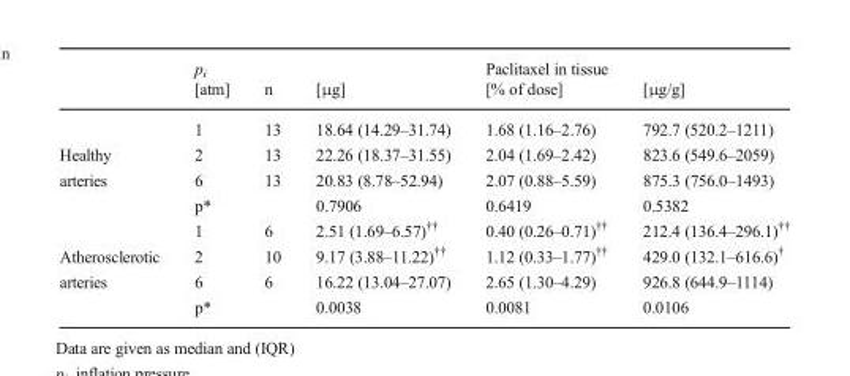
<table><thead><tr><td rowspan="2"></td><td rowspan="2">p<sub>i</sub> [atm]</td><td rowspan="2">n</td><td rowspan="2">[μg]</td><td rowspan="2">Paclitaxel in tissue [% of dose]</td><td rowspan="2">[μg/g]</td></tr><tr></tr></thead><tbody><tr><td></td><td>1</td><td>13</td><td>18.64 (14.29–31.74)</td><td>1.68 (1.16–2.76)</td><td>792.7 (520.2–1211)</td></tr><tr><td>Healthy</td><td>2</td><td>13</td><td>22.26 (18.37–31.55)</td><td>2.04 (1.69–2.42)</td><td>823.6 (549.6–2059)</td></tr><tr><td rowspan="3">arteries</td><td>6</td><td>13</td><td>20.83 (8.78–52.94)</td><td>2.07 (0.88–5.59)</td><td>875.3 (756.0–1493)</td></tr><tr><td>p*</td><td></td><td>0.7906</td><td>0.6419</td><td>0.5382</td></tr><tr><td>1</td><td>6</td><td>2.51 (1.69–6.57)<sup>††</sup></td><td>0.40 (0.26–0.71)<sup>††</sup></td><td>212.4 (136.4–296.1)<sup>††</sup></td></tr><tr><td>Atherosclerotic</td><td>2</td><td>10</td><td>9.17 (3.88–11.22)<sup>††</sup></td><td>1.12 (0.33–1.77)<sup>††</sup></td><td>429.0 (132.1–616.6)<sup>†</sup></td></tr><tr><td rowspan="2">arteries</td><td>6</td><td>6</td><td>16.22 (13.04–27.07)</td><td>2.65 (1.30–4.29)</td><td>926.8 (644.9–1114)</td></tr><tr><td>p*</td><td></td><td>0.0038</td><td>0.0081</td><td>0.0106</td></tr></tbody></table>